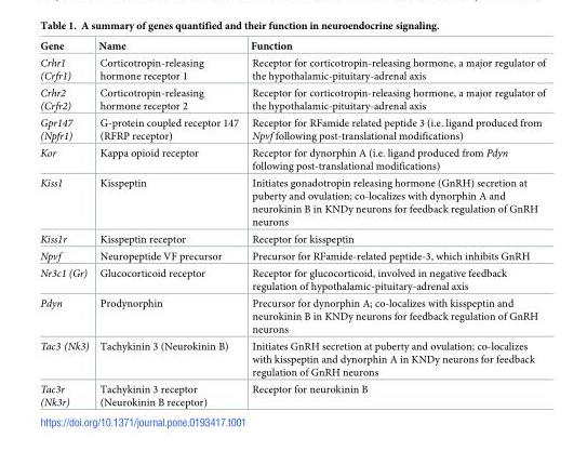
<table><thead><tr><td>Gene</td><td>Name</td><td>Function</td></tr></thead><tbody><tr><td>Crhr1 (Crfr1)</td><td>Corticotropin-releasing hormone receptor 1</td><td>Receptor for corticotropin-releasing hormone, a major regulator of the hypothalamic-pituitary-adrenal axis</td></tr><tr><td>Crhr2 (Crfr2)</td><td>Corticotropin-releasing hormone receptor 2</td><td>Receptor for corticotropin-releasing hormone, a major regulator of the hypothalamic-pituitary-adrenal axis</td></tr><tr><td>Gpr147 (Npfr1)</td><td>G-protein coupled receptor 147 (RFRP receptor)</td><td>Receptor for RFamide related peptide 3 (i.e. ligand produced from Npvf following post-translational modifications)</td></tr><tr><td>Kor</td><td>Kappa opioid receptor</td><td>Receptor for dynorphin A (i.e. ligand produced from Pdyn following post-translational modifications)</td></tr><tr><td>Kiss1</td><td>Kisspeptin</td><td>Initiates gonadotropin releasing hormone (GnRH) secretion at puberty and ovulation; co-localizes with dynorphin A and neurokinin B in KNDy neurons for feedback regulation of GnRH neurons</td></tr><tr><td>Kiss1r</td><td>Kisspeptin receptor</td><td>Receptor for kisspeptin</td></tr><tr><td>Npvf</td><td>Neuropeptide VF precursor</td><td>Precursor for RFamide-related peptide-3, which inhibits GnRH</td></tr><tr><td>Nr3c1 (Gr)</td><td>Glucocorticoid receptor</td><td>Receptor for glucocorticoid, involved in negative feedback regulation of hypothalamic-pituitary-adrenal axis</td></tr><tr><td>Pdyn</td><td>Prodynorphin</td><td>Precursor for dynorphin A; co-localizes with kisspeptin and neurokinin B in KNDy neurons for feedback regulation of GnRH neurons</td></tr><tr><td>Tac3 (Nk3)</td><td>Tachykinin 3 (Neurokinin B)</td><td>Initiates GnRH secretion at puberty and ovulation; co-localizes with kisspeptin and dynorphin A in KNDy neurons for feedback regulation of GnRH neurons</td></tr><tr><td>Tac3r (Nk3r)</td><td>Tachykinin 3 receptor (Neurokinin B receptor)</td><td>Receptor for neurokinin B</td></tr></tbody></table>